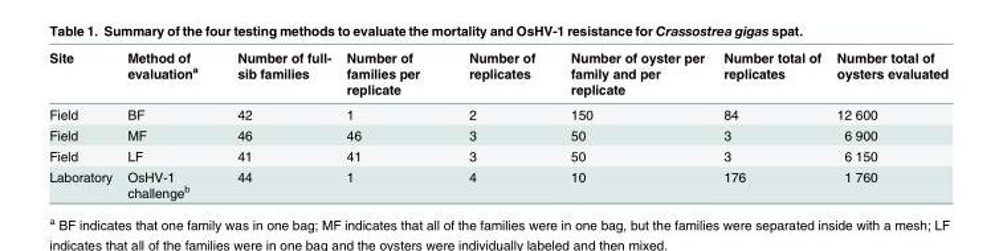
<table><thead><tr><td>Site</td><td>Method of evaluation<sup>a</sup></td><td>Number of full- sib families</td><td>Number of families per replicate</td><td>Number of replicates</td><td>Number of oyster per family and per replicate</td><td>Number total of replicates</td><td>Number total of oysters evaluated</td></tr></thead><tbody><tr><td>Field</td><td>BF</td><td>42</td><td>1</td><td>2</td><td>150</td><td>84</td><td>12 600</td></tr><tr><td>Field</td><td>MF</td><td>46</td><td>46</td><td>3</td><td>50</td><td>3</td><td>6 900</td></tr><tr><td>Field</td><td>LF</td><td>41</td><td>41</td><td>3</td><td>50</td><td>3</td><td>6 150</td></tr><tr><td>Laboratory</td><td>OsHV-1 challenge<sup>b</sup></td><td>44</td><td>1</td><td>4</td><td>10</td><td>176</td><td>1 760</td></tr></tbody></table>